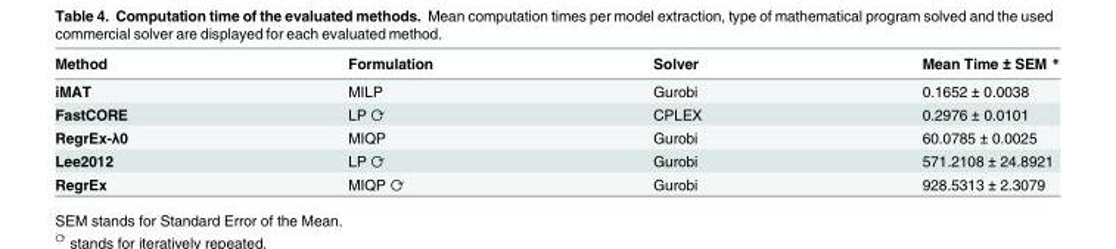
<table><thead><tr><td>Method</td><td>Formulation</td><td>Solver</td><td>Mean Time ± SEM *</td></tr></thead><tbody><tr><td>iMAT</td><td>MILP</td><td>Gurobi</td><td>0.1652 ± 0.0038</td></tr><tr><td>FastCORE</td><td>LP ⟳</td><td>CPLEX</td><td>0.2976 ± 0.0101</td></tr><tr><td>RegrEx-λ0</td><td>MIQP</td><td>Gurobi</td><td>60.0785 ± 0.0025</td></tr><tr><td>Lee2012</td><td>LP ⟳</td><td>Gurobi</td><td>571.2108 ± 24.8921</td></tr><tr><td>RegrEx</td><td>MIQP ⟳</td><td>Gurobi</td><td>928.5313 ± 2.3079</td></tr></tbody></table>